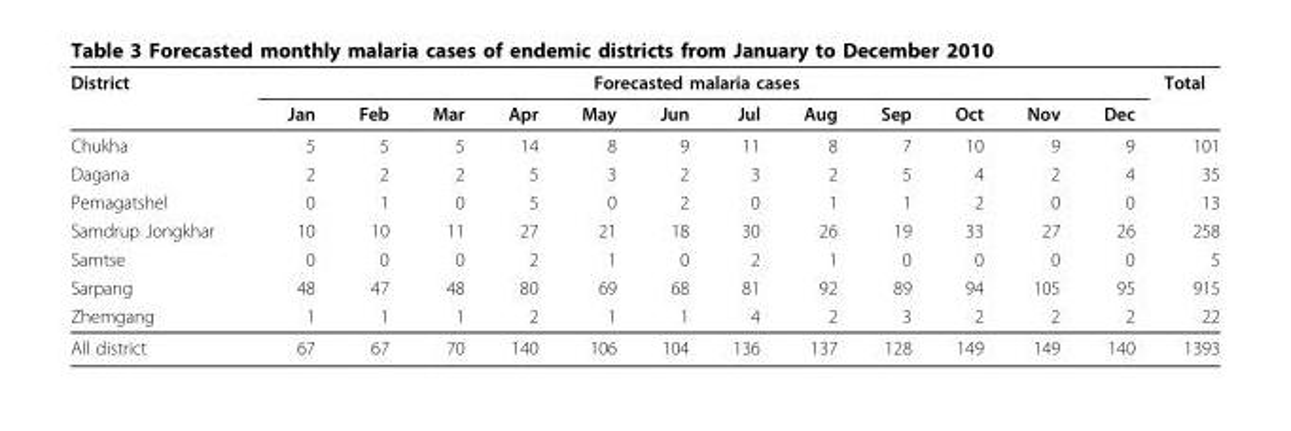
<table><thead><tr><td rowspan="2">District</td><td colspan="12">Forecasted malaria cases</td><td rowspan="2">Total</td></tr><tr><td>Jan</td><td>Feb</td><td>Mar</td><td>Apr</td><td>May</td><td>Jun</td><td>Jul</td><td>Aug</td><td>Sep</td><td>Oct</td><td>Nov</td><td>Dec</td></tr></thead><tbody><tr><td>Chukha</td><td>5</td><td>5</td><td>5</td><td>14</td><td>8</td><td>9</td><td>11</td><td>8</td><td>7</td><td>10</td><td>9</td><td>9</td><td>101</td></tr><tr><td>Dagana</td><td>2</td><td>2</td><td>2</td><td>5</td><td>3</td><td>2</td><td>3</td><td>2</td><td>5</td><td>4</td><td>2</td><td>4</td><td>35</td></tr><tr><td>Pemagatshel</td><td>0</td><td>1</td><td>0</td><td>5</td><td>0</td><td>2</td><td>0</td><td>1</td><td>1</td><td>2</td><td>0</td><td>0</td><td>13</td></tr><tr><td>Samdrup Jongkhar</td><td>10</td><td>10</td><td>11</td><td>27</td><td>21</td><td>18</td><td>30</td><td>26</td><td>19</td><td>33</td><td>27</td><td>26</td><td>258</td></tr><tr><td>Samtse</td><td>0</td><td>0</td><td>0</td><td>2</td><td>1</td><td>0</td><td>2</td><td>1</td><td>0</td><td>0</td><td>0</td><td>0</td><td>5</td></tr><tr><td>Sarpang</td><td>48</td><td>47</td><td>48</td><td>80</td><td>69</td><td>68</td><td>81</td><td>92</td><td>89</td><td>94</td><td>105</td><td>95</td><td>915</td></tr><tr><td>Zhemgang</td><td>1</td><td>1</td><td>1</td><td>2</td><td>1</td><td>1</td><td>4</td><td>2</td><td>3</td><td>2</td><td>2</td><td>2</td><td>22</td></tr><tr><td>All district</td><td>67</td><td>67</td><td>70</td><td>140</td><td>106</td><td>104</td><td>136</td><td>137</td><td>128</td><td>149</td><td>149</td><td>140</td><td>1393</td></tr></tbody></table>